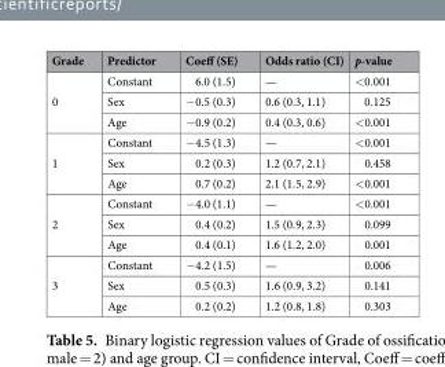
<table><thead><tr><td>Grade</td><td>Predictor</td><td>Coeff (SE)</td><td>Odds ratio (CI)</td><td>p-value</td></tr></thead><tbody><tr><td rowspan="3">0</td><td>Constant</td><td>6.0 (1.5)</td><td>—</td><td>&lt;0.001</td></tr><tr><td>Sex</td><td>−0.5 (0.3)</td><td>0.6 (0.3, 1.1)</td><td>0.125</td></tr><tr><td>Age</td><td>−0.9 (0.2)</td><td>0.4 (0.3, 0.6)</td><td>&lt;0.001</td></tr><tr><td rowspan="3">1</td><td>Constant</td><td>−4.5 (1.3)</td><td>—</td><td>&lt;0.001</td></tr><tr><td>Sex</td><td>0.2 (0.3)</td><td>1.2 (0.7, 2.1)</td><td>0.458</td></tr><tr><td>Age</td><td>0.7 (0.2)</td><td>2.1 (1.5, 2.9)</td><td>&lt;0.001</td></tr><tr><td rowspan="3">2</td><td>Constant</td><td>−4.0 (1.1)</td><td>—</td><td>&lt;0.001</td></tr><tr><td>Sex</td><td>0.4 (0.2)</td><td>1.5 (0.9, 2.3)</td><td>0.099</td></tr><tr><td>Age</td><td>0.4 (0.1)</td><td>1.6 (1.2, 2.0)</td><td>0.001</td></tr><tr><td rowspan="3">3</td><td>Constant</td><td>−4.2 (1.5)</td><td>—</td><td>0.006</td></tr><tr><td>Sex</td><td>0.5 (0.3)</td><td>1.6 (0.9, 3.2)</td><td>0.141</td></tr><tr><td>Age</td><td>0.2 (0.2)</td><td>1.2 (0.8, 1.8)</td><td>0.303</td></tr></tbody></table>